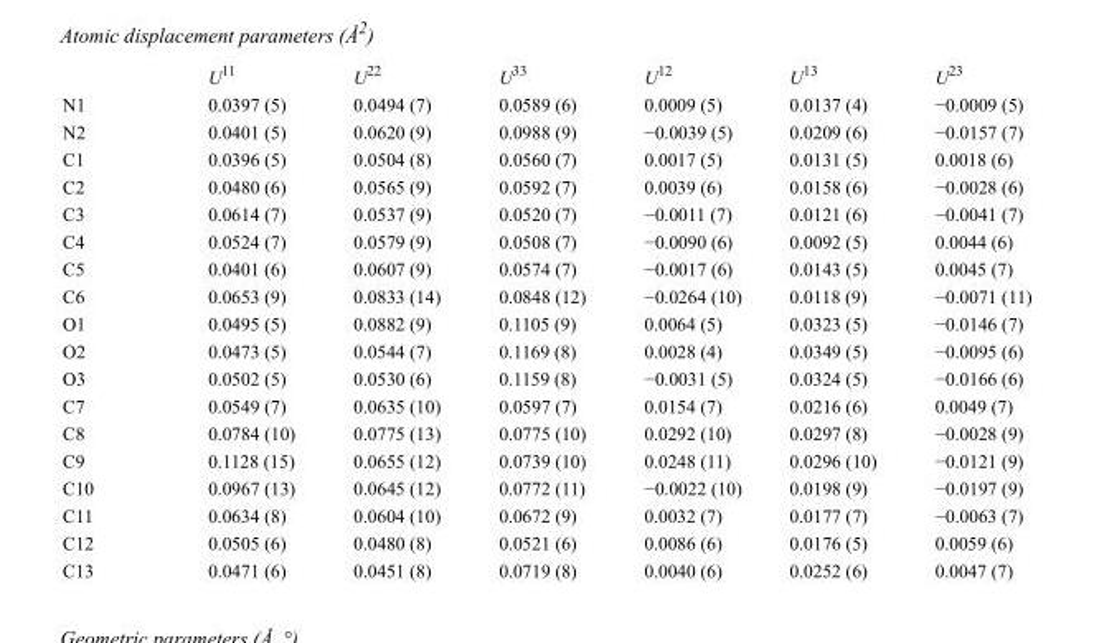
<table><thead><tr><td></td><td>U<sup>11</sup></td><td>U<sup>22</sup></td><td>U<sup>33</sup></td><td>U<sup>12</sup></td><td>U<sup>13</sup></td><td>U<sup>23</sup></td></tr></thead><tbody><tr><td>N1</td><td>0.0397 (5)</td><td>0.0494 (7)</td><td>0.0589 (6)</td><td>0.0009 (5)</td><td>0.0137 (4)</td><td>−0.0009 (5)</td></tr><tr><td>N2</td><td>0.0401 (5)</td><td>0.0620 (9)</td><td>0.0988 (9)</td><td>−0.0039 (5)</td><td>0.0209 (6)</td><td>−0.0157 (7)</td></tr><tr><td>C1</td><td>0.0396 (5)</td><td>0.0504 (8)</td><td>0.0560 (7)</td><td>0.0017 (5)</td><td>0.0131 (5)</td><td>0.0018 (6)</td></tr><tr><td>C2</td><td>0.0480 (6)</td><td>0.0565 (9)</td><td>0.0592 (7)</td><td>0.0039 (6)</td><td>0.0158 (6)</td><td>−0.0028 (6)</td></tr><tr><td>C3</td><td>0.0614 (7)</td><td>0.0537 (9)</td><td>0.0520 (7)</td><td>−0.0011 (7)</td><td>0.0121 (6)</td><td>−0.0041 (7)</td></tr><tr><td>C4</td><td>0.0524 (7)</td><td>0.0579 (9)</td><td>0.0508 (7)</td><td>−0.0090 (6)</td><td>0.0092 (5)</td><td>0.0044 (6)</td></tr><tr><td>C5</td><td>0.0401 (6)</td><td>0.0607 (9)</td><td>0.0574 (7)</td><td>−0.0017 (6)</td><td>0.0143 (5)</td><td>0.0045 (7)</td></tr><tr><td>C6</td><td>0.0653 (9)</td><td>0.0833 (14)</td><td>0.0848 (12)</td><td>−0.0264 (10)</td><td>0.0118 (9)</td><td>−0.0071 (11)</td></tr><tr><td>O1</td><td>0.0495 (5)</td><td>0.0882 (9)</td><td>0.1105 (9)</td><td>0.0064 (5)</td><td>0.0323 (5)</td><td>−0.0146 (7)</td></tr><tr><td>O2</td><td>0.0473 (5)</td><td>0.0544 (7)</td><td>0.1169 (8)</td><td>0.0028 (4)</td><td>0.0349 (5)</td><td>−0.0095 (6)</td></tr><tr><td>O3</td><td>0.0502 (5)</td><td>0.0530 (6)</td><td>0.1159 (8)</td><td>−0.0031 (5)</td><td>0.0324 (5)</td><td>−0.0166 (6)</td></tr><tr><td>C7</td><td>0.0549 (7)</td><td>0.0635 (10)</td><td>0.0597 (7)</td><td>0.0154 (7)</td><td>0.0216 (6)</td><td>0.0049 (7)</td></tr><tr><td>C8</td><td>0.0784 (10)</td><td>0.0775 (13)</td><td>0.0775 (10)</td><td>0.0292 (10)</td><td>0.0297 (8)</td><td>−0.0028 (9)</td></tr><tr><td>C9</td><td>0.1128 (15)</td><td>0.0655 (12)</td><td>0.0739 (10)</td><td>0.0248 (11)</td><td>0.0296 (10)</td><td>−0.0121 (9)</td></tr><tr><td>C10</td><td>0.0967 (13)</td><td>0.0645 (12)</td><td>0.0772 (11)</td><td>−0.0022 (10)</td><td>0.0198 (9)</td><td>−0.0197 (9)</td></tr><tr><td>C11</td><td>0.0634 (8)</td><td>0.0604 (10)</td><td>0.0672 (9)</td><td>0.0032 (7)</td><td>0.0177 (7)</td><td>−0.0063 (7)</td></tr><tr><td>C12</td><td>0.0505 (6)</td><td>0.0480 (8)</td><td>0.0521 (6)</td><td>0.0086 (6)</td><td>0.0176 (5)</td><td>0.0059 (6)</td></tr><tr><td>C13</td><td>0.0471 (6)</td><td>0.0451 (8)</td><td>0.0719 (8)</td><td>0.0040 (6)</td><td>0.0252 (6)</td><td>0.0047 (7)</td></tr></tbody></table>